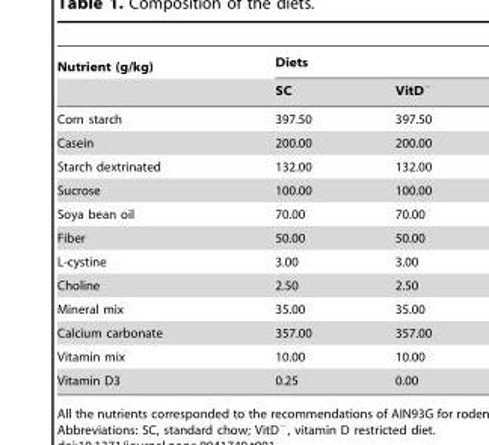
<table><thead><tr><td rowspan="2">Nutrient (g/kg)</td><td colspan="2">Diets</td></tr><tr><td>SC</td><td>VitD<sup>−</sup></td></tr></thead><tbody><tr><td>Corn starch</td><td>397.50</td><td>397.50</td></tr><tr><td>Casein</td><td>200.00</td><td>200.00</td></tr><tr><td>Starch dextrinated</td><td>132.00</td><td>132.00</td></tr><tr><td>Sucrose</td><td>100.00</td><td>100.00</td></tr><tr><td>Soya bean oil</td><td>70.00</td><td>70.00</td></tr><tr><td>Fiber</td><td>50.00</td><td>50.00</td></tr><tr><td>L-cystine</td><td>3.00</td><td>3.00</td></tr><tr><td>Choline</td><td>2.50</td><td>2.50</td></tr><tr><td>Mineral mix</td><td>35.00</td><td>35.00</td></tr><tr><td>Calcium carbonate</td><td>357.00</td><td>357.00</td></tr><tr><td>Vitamin mix</td><td>10.00</td><td>10.00</td></tr><tr><td>Vitamin D3</td><td>0.25</td><td>0.00</td></tr></tbody></table>